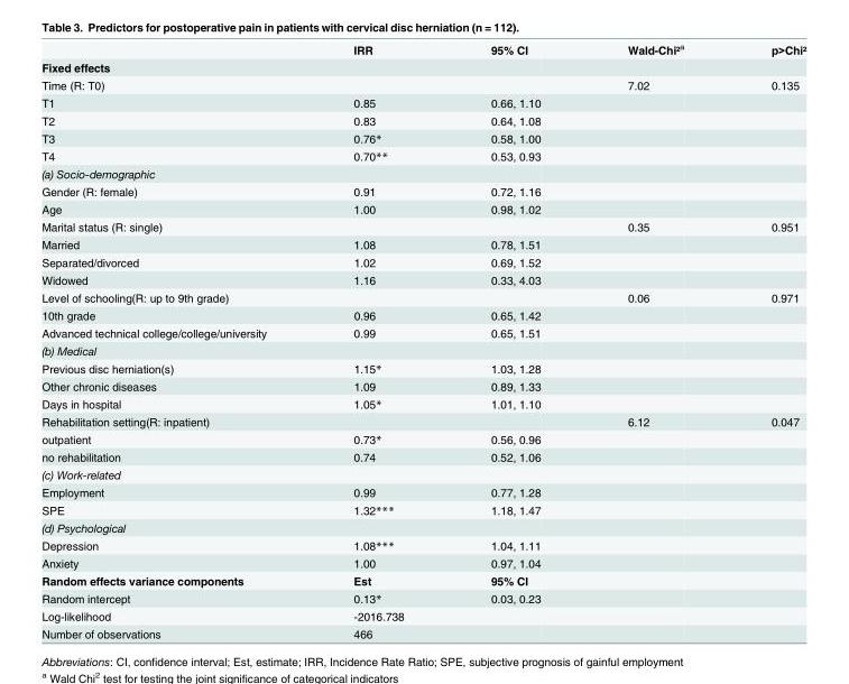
<table><thead><tr><td></td><td>IRR</td><td>95% CI</td><td>Wald-Chi²<sup>a</sup></td><td>p&gt;Chi²</td></tr></thead><tbody><tr><td colspan="5">Fixed effects</td></tr><tr><td>Time (R: T0)</td><td></td><td></td><td>7.02</td><td>0.135</td></tr><tr><td>T1</td><td>0.85</td><td>0.66, 1.10</td><td></td><td></td></tr><tr><td>T2</td><td>0.83</td><td>0.64, 1.08</td><td></td><td></td></tr><tr><td>T3</td><td>0.76*</td><td>0.58, 1.00</td><td></td><td></td></tr><tr><td>T4</td><td>0.70**</td><td>0.53, 0.93</td><td></td><td></td></tr><tr><td colspan="5">(a) Socio-demographic</td></tr><tr><td>Gender (R: female)</td><td>0.91</td><td>0.72, 1.16</td><td></td><td></td></tr><tr><td>Age</td><td>1.00</td><td>0.98, 1.02</td><td></td><td></td></tr><tr><td>Marital status (R: single)</td><td></td><td></td><td>0.35</td><td>0.951</td></tr><tr><td>Married</td><td>1.08</td><td>0.78, 1.51</td><td></td><td></td></tr><tr><td>Separated/divorced</td><td>1.02</td><td>0.69, 1.52</td><td></td><td></td></tr><tr><td>Widowed</td><td>1.16</td><td>0.33, 4.03</td><td></td><td></td></tr><tr><td>Level of schooling(R: up to 9th grade)</td><td></td><td></td><td>0.06</td><td>0.971</td></tr><tr><td>10th grade</td><td>0.96</td><td>0.65, 1.42</td><td></td><td></td></tr><tr><td>Advanced technical college/college/university</td><td>0.99</td><td>0.65, 1.51</td><td></td><td></td></tr><tr><td colspan="5">(b) Medical</td></tr><tr><td>Previous disc herniation(s)</td><td>1.15*</td><td>1.03, 1.28</td><td></td><td></td></tr><tr><td>Other chronic diseases</td><td>1.09</td><td>0.89, 1.33</td><td></td><td></td></tr><tr><td>Days in hospital</td><td>1.05*</td><td>1.01, 1.10</td><td></td><td></td></tr><tr><td>Rehabilitation setting(R: inpatient)</td><td></td><td></td><td>6.12</td><td>0.047</td></tr><tr><td>outpatient</td><td>0.73*</td><td>0.56, 0.96</td><td></td><td></td></tr><tr><td>no rehabilitation</td><td>0.74</td><td>0.52, 1.06</td><td></td><td></td></tr><tr><td colspan="5">(c) Work-related</td></tr><tr><td>Employment</td><td>0.99</td><td>0.77, 1.28</td><td></td><td></td></tr><tr><td>SPE</td><td>1.32***</td><td>1.18, 1.47</td><td></td><td></td></tr><tr><td colspan="5">(d) Psychological</td></tr><tr><td>Depression</td><td>1.08***</td><td>1.04, 1.11</td><td></td><td></td></tr><tr><td>Anxiety</td><td>1.00</td><td>0.97, 1.04</td><td></td><td></td></tr><tr><td>Random effects variance components</td><td>Est</td><td>95% CI</td><td></td><td></td></tr><tr><td>Random intercept</td><td>0.13*</td><td>0.03, 0.23</td><td></td><td></td></tr><tr><td>Log-likelihood</td><td>-2016.738</td><td></td><td></td><td></td></tr><tr><td>Number of observations</td><td>466</td><td></td><td></td><td></td></tr></tbody></table>